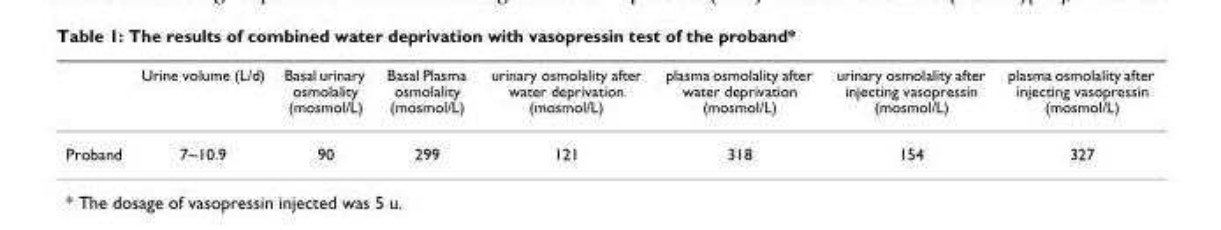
<table><thead><tr><td></td><td>Urine volume (L/d)</td><td>Basal urinary osmolality (mosmol/L)</td><td>Basal Plasma osmolality (mosmol/L)</td><td>urinary osmolality after water deprivation (mosmol/L)</td><td>plasma osmolality after water deprivation (mosmol/L)</td><td>urinary osmolality after injecting vasopressin (mosmol/L)</td><td>plasma osmolality after injecting vasopressin (mosmol/L)</td></tr></thead><tbody><tr><td>Proband</td><td>7~10.9</td><td>90</td><td>299</td><td>121</td><td>318</td><td>154</td><td>327</td></tr></tbody></table>